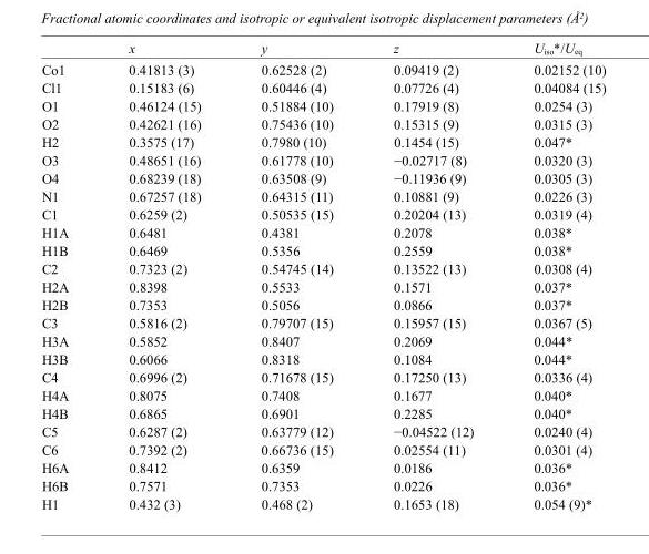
<table><thead><tr><td></td><td>x</td><td>y</td><td>z</td><td>U<sub>iso</sub>*/U<sub>eq</sub></td></tr></thead><tbody><tr><td>Co1</td><td>0.41813 (3)</td><td>0.62528 (2)</td><td>0.09419 (2)</td><td>0.02152 (10)</td></tr><tr><td>Cl1</td><td>0.15183 (6)</td><td>0.60446 (4)</td><td>0.07726 (4)</td><td>0.04084 (15)</td></tr><tr><td>O1</td><td>0.46124 (15)</td><td>0.51884 (10)</td><td>0.17919 (8)</td><td>0.0254 (3)</td></tr><tr><td>O2</td><td>0.42621 (16)</td><td>0.75436 (10)</td><td>0.15315 (9)</td><td>0.0315 (3)</td></tr><tr><td>H2</td><td>0.3575 (17)</td><td>0.7980 (10)</td><td>0.1454 (15)</td><td>0.047*</td></tr><tr><td>O3</td><td>0.48651 (16)</td><td>0.61778 (10)</td><td>−0.02717 (8)</td><td>0.0320 (3)</td></tr><tr><td>O4</td><td>0.68239 (18)</td><td>0.63508 (9)</td><td>−0.11936 (9)</td><td>0.0305 (3)</td></tr><tr><td>N1</td><td>0.67257 (18)</td><td>0.64315 (11)</td><td>0.10881 (9)</td><td>0.0226 (3)</td></tr><tr><td>C1</td><td>0.6259 (2)</td><td>0.50535 (15)</td><td>0.20204 (13)</td><td>0.0319 (4)</td></tr><tr><td>H1A</td><td>0.6481</td><td>0.4381</td><td>0.2078</td><td>0.038*</td></tr><tr><td>H1B</td><td>0.6469</td><td>0.5356</td><td>0.2559</td><td>0.038*</td></tr><tr><td>C2</td><td>0.7323 (2)</td><td>0.54745 (14)</td><td>0.13522 (13)</td><td>0.0308 (4)</td></tr><tr><td>H2A</td><td>0.8398</td><td>0.5533</td><td>0.1571</td><td>0.037*</td></tr><tr><td>H2B</td><td>0.7353</td><td>0.5056</td><td>0.0866</td><td>0.037*</td></tr><tr><td>C3</td><td>0.5816 (2)</td><td>0.79707 (15)</td><td>0.15957 (15)</td><td>0.0367 (5)</td></tr><tr><td>H3A</td><td>0.5852</td><td>0.8407</td><td>0.2069</td><td>0.044*</td></tr><tr><td>H3B</td><td>0.6066</td><td>0.8318</td><td>0.1084</td><td>0.044*</td></tr><tr><td>C4</td><td>0.6996 (2)</td><td>0.71678 (15)</td><td>0.17250 (13)</td><td>0.0336 (4)</td></tr><tr><td>H4A</td><td>0.8075</td><td>0.7408</td><td>0.1677</td><td>0.040*</td></tr><tr><td>H4B</td><td>0.6865</td><td>0.6901</td><td>0.2285</td><td>0.040*</td></tr><tr><td>C5</td><td>0.6287 (2)</td><td>0.63779 (12)</td><td>−0.04522 (12)</td><td>0.0240 (4)</td></tr><tr><td>C6</td><td>0.7392 (2)</td><td>0.66736 (15)</td><td>0.02554 (11)</td><td>0.0301 (4)</td></tr><tr><td>H6A</td><td>0.8412</td><td>0.6359</td><td>0.0186</td><td>0.036*</td></tr><tr><td>H6B</td><td>0.7571</td><td>0.7353</td><td>0.0226</td><td>0.036*</td></tr><tr><td>H1</td><td>0.432 (3)</td><td>0.468 (2)</td><td>0.1653 (18)</td><td>0.054 (9)*</td></tr></tbody></table>